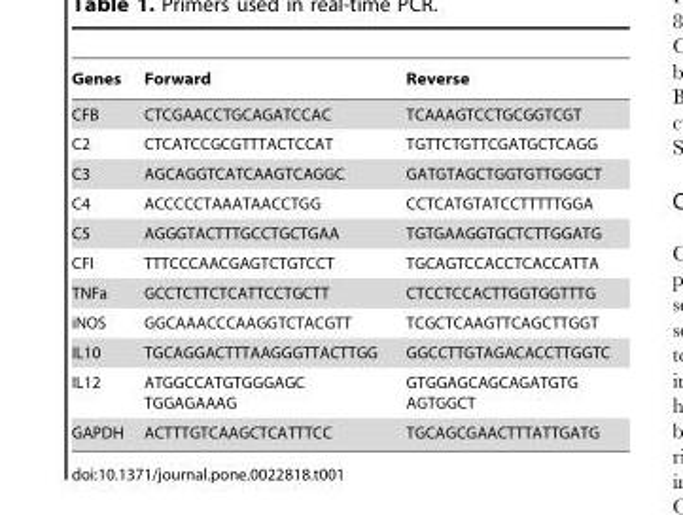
<table><thead><tr><td>Genes</td><td>Forward</td><td>Reverse</td></tr></thead><tbody><tr><td>CFB</td><td>CTCGAACCTGCAGATCCAC</td><td>TCAAAGTCCTGCGGTCGT</td></tr><tr><td>C2</td><td>CTCATCCGCGTTTACTCCAT</td><td>TGTTCTGTTCGATGCTCAGG</td></tr><tr><td>C3</td><td>AGCAGGTCATCAAGTCAGGC</td><td>GATGTAGCTGGTGTTGGGCT</td></tr><tr><td>C4</td><td>ACCCCCTAAATAACCTGG</td><td>CCTCATGTATCCTTTTTGGA</td></tr><tr><td>C5</td><td>AGGGTACTTTGCCTGCTGAA</td><td>TGTGAAGGTGCTCTTGGATG</td></tr><tr><td>CFI</td><td>TTTCCCAACGAGTCTGTCCT</td><td>TGCAGTCCACCTCACCATTA</td></tr><tr><td>TNFa</td><td>GCCTCTTCTCATTCCTGCTT</td><td>CTCCTCCACTTGGTGGTTTG</td></tr><tr><td>iNOS</td><td>GGCAAACCCAAGGTCTACGTT</td><td>TCGCTCAAGTTCAGCTTGGT</td></tr><tr><td>IL10</td><td>TGCAGGACTTTAAGGGTTACTTGG</td><td>GGCCTTGTAGACACCTTGGTC</td></tr><tr><td>IL12</td><td>ATGGCCATGTGGGAGC TGGAGAAAG</td><td>GTGGAGCAGCAGATGTG AGTGGCT</td></tr><tr><td>GAPDH</td><td>ACTTTGTCAAGCTCATTTCC</td><td>TGCAGCGAACTTTATTGATG</td></tr></tbody></table>